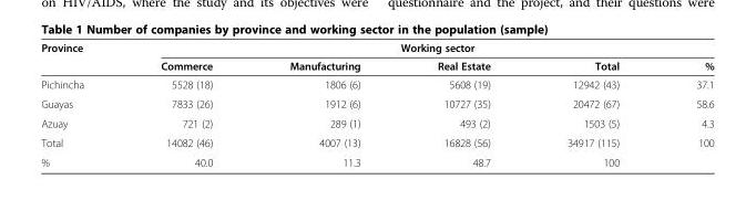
<table><thead><tr><td rowspan="2">Province</td><td colspan="5">Working sector</td></tr><tr><td>Commerce</td><td>Manufacturing</td><td>Real Estate</td><td>Total</td><td>%</td></tr></thead><tbody><tr><td>Pichincha</td><td>5528 (18)</td><td>1806 (6)</td><td>5608 (19)</td><td>12942 (43)</td><td>37.1</td></tr><tr><td>Guayas</td><td>7833 (26)</td><td>1912 (6)</td><td>10727 (35)</td><td>20472 (67)</td><td>58.6</td></tr><tr><td>Azuay</td><td>721 (2)</td><td>289 (1)</td><td>493 (2)</td><td>1503 (5)</td><td>4.3</td></tr><tr><td>Total</td><td>14082 (46)</td><td>4007 (13)</td><td>16828 (56)</td><td>34917 (115)</td><td>100</td></tr><tr><td>%</td><td>40.0</td><td>11.3</td><td>48.7</td><td>100</td><td></td></tr></tbody></table>